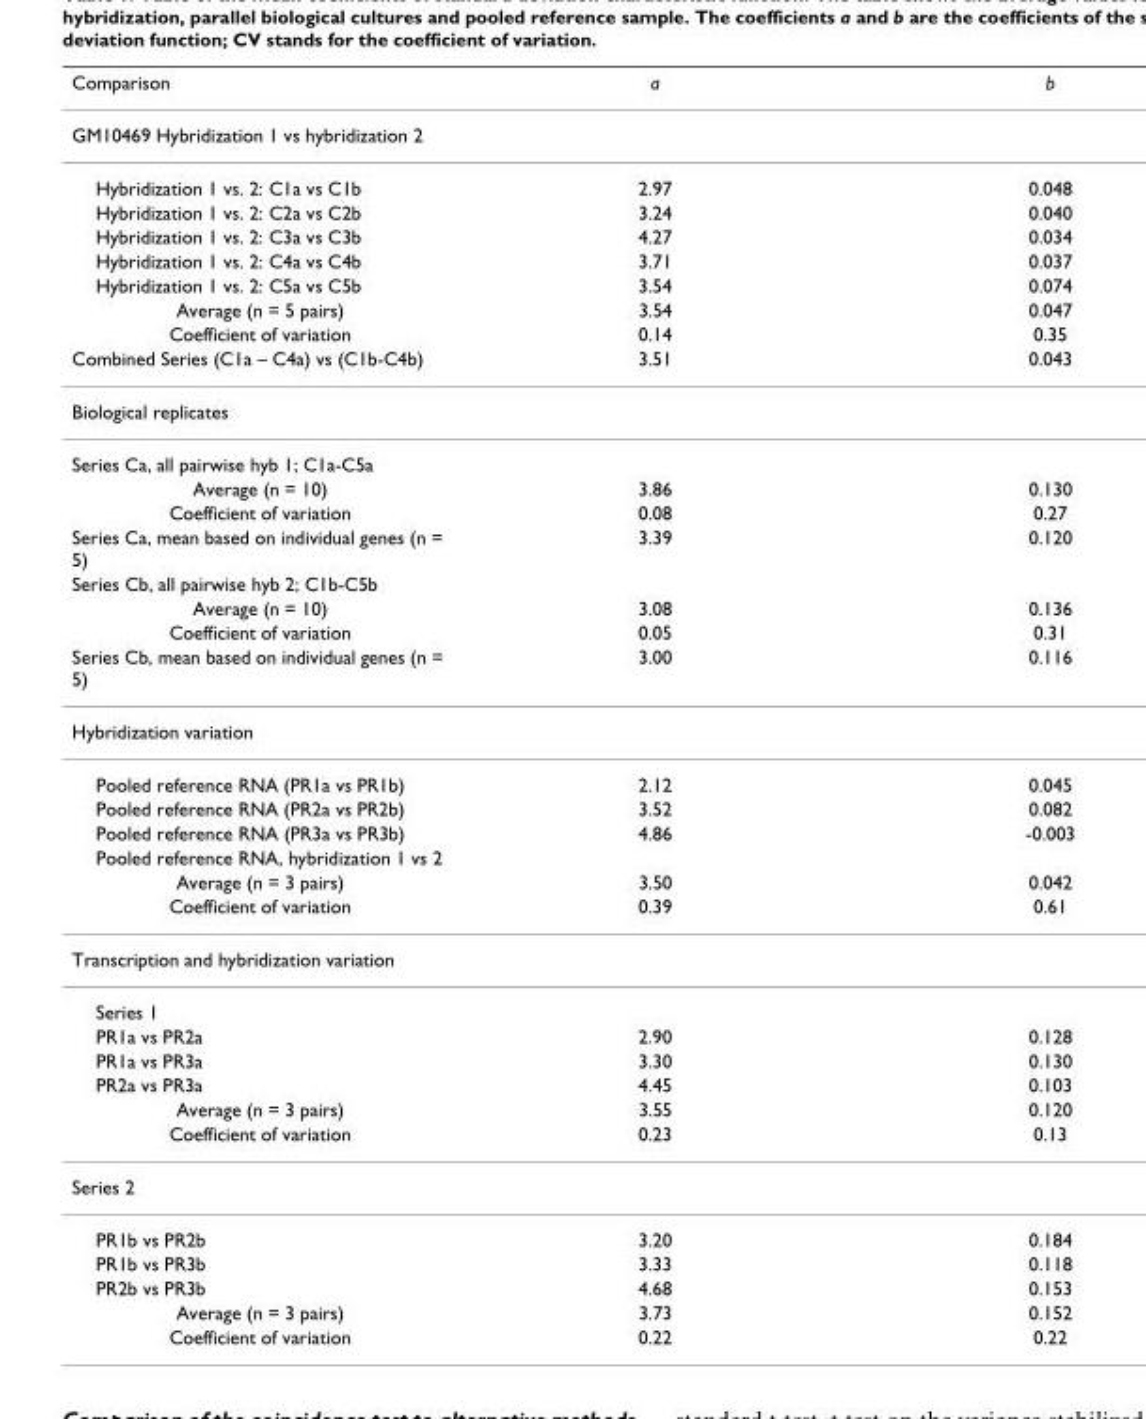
<table><thead><tr><td>Comparison</td><td>a</td><td>b</td></tr></thead><tbody><tr><td colspan="3">GM10469 Hybridization 1 vs hybridization 2</td></tr><tr><td>Hybridization 1 vs. 2: C1a vs C1b</td><td>2.97</td><td>0.048</td></tr><tr><td>Hybridization 1 vs. 2: C2a vs C2b</td><td>3.24</td><td>0.040</td></tr><tr><td>Hybridization 1 vs. 2: C3a vs C3b</td><td>4.27</td><td>0.034</td></tr><tr><td>Hybridization 1 vs. 2: C4a vs C4b</td><td>3.71</td><td>0.037</td></tr><tr><td>Hybridization 1 vs. 2: C5a vs C5b</td><td>3.54</td><td>0.074</td></tr><tr><td>Average (n = 5 pairs)</td><td>3.54</td><td>0.047</td></tr><tr><td>Coefficient of variation</td><td>0.14</td><td>0.35</td></tr><tr><td>Combined Series (C1a – C4a) vs (C1b-C4b)</td><td>3.51</td><td>0.043</td></tr><tr><td colspan="3">Biological replicates</td></tr><tr><td colspan="3">Series Ca, all pairwise hyb 1; C1a-C5a</td></tr><tr><td>Average (n = 10)</td><td>3.86</td><td>0.130</td></tr><tr><td>Coefficient of variation</td><td>0.08</td><td>0.27</td></tr><tr><td>Series Ca, mean based on individual genes (n = 5)</td><td>3.39</td><td>0.120</td></tr><tr><td colspan="3">Series Cb, all pairwise hyb 2; C1b-C5b</td></tr><tr><td>Average (n = 10)</td><td>3.08</td><td>0.136</td></tr><tr><td>Coefficient of variation</td><td>0.05</td><td>0.31</td></tr><tr><td>Series Cb, mean based on individual genes (n = 5)</td><td>3.00</td><td>0.116</td></tr><tr><td colspan="3">Hybridization variation</td></tr><tr><td>Pooled reference RNA (PR1a vs PR1b)</td><td>2.12</td><td>0.045</td></tr><tr><td>Pooled reference RNA (PR2a vs PR2b)</td><td>3.52</td><td>0.082</td></tr><tr><td>Pooled reference RNA (PR3a vs PR3b)</td><td>4.86</td><td>-0.003</td></tr><tr><td colspan="3">Pooled reference RNA, hybridization 1 vs 2</td></tr><tr><td>Average (n = 3 pairs)</td><td>3.50</td><td>0.042</td></tr><tr><td>Coefficient of variation</td><td>0.39</td><td>0.61</td></tr><tr><td colspan="3">Transcription and hybridization variation</td></tr><tr><td colspan="3">Series 1</td></tr><tr><td>PR1a vs PR2a</td><td>2.90</td><td>0.128</td></tr><tr><td>PR1a vs PR3a</td><td>3.30</td><td>0.130</td></tr><tr><td>PR2a vs PR3a</td><td>4.45</td><td>0.103</td></tr><tr><td>Average (n = 3 pairs)</td><td>3.55</td><td>0.120</td></tr><tr><td>Coefficient of variation</td><td>0.23</td><td>0.13</td></tr><tr><td colspan="3">Series 2</td></tr><tr><td>PR1b vs PR2b</td><td>3.20</td><td>0.184</td></tr><tr><td>PR1b vs PR3b</td><td>3.33</td><td>0.118</td></tr><tr><td>PR2b vs PR3b</td><td>4.68</td><td>0.153</td></tr><tr><td>Average (n = 3 pairs)</td><td>3.73</td><td>0.152</td></tr><tr><td>Coefficient of variation</td><td>0.22</td><td>0.22</td></tr></tbody></table>